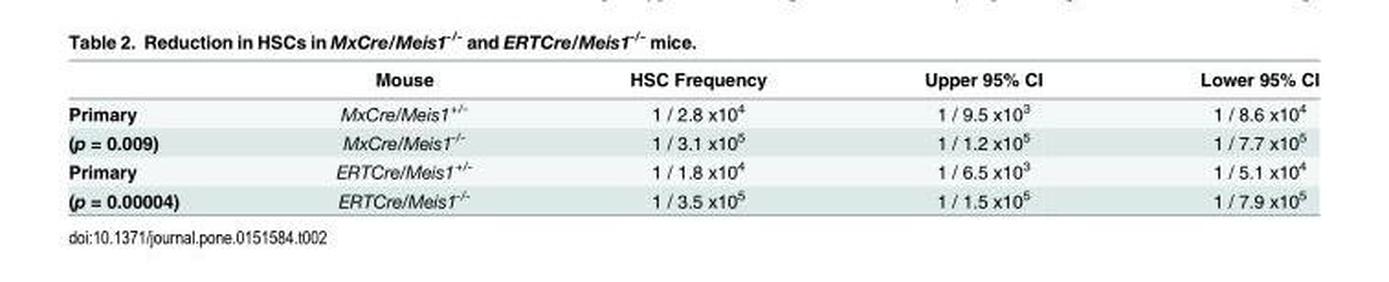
<table><thead><tr><td></td><td>Mouse</td><td>HSC Frequency</td><td>Upper 95% CI</td><td>Lower 95% CI</td></tr></thead><tbody><tr><td>Primary</td><td>MxCre/Meis1<sup>+/-</sup></td><td>1 / 2.8 x10<sup>4</sup></td><td>1 / 9.5 x10<sup>3</sup></td><td>1 / 8.6 x10<sup>4</sup></td></tr><tr><td>(p = 0.009)</td><td>MxCre/Meis1<sup>-/-</sup></td><td>1 / 3.1 x10<sup>5</sup></td><td>1 / 1.2 x10<sup>5</sup></td><td>1 / 7.7 x10<sup>5</sup></td></tr><tr><td>Primary</td><td>ERTCre/Meis1<sup>+/-</sup></td><td>1 / 1.8 x10<sup>4</sup></td><td>1 / 6.5 x10<sup>3</sup></td><td>1 / 5.1 x10<sup>4</sup></td></tr><tr><td>(p = 0.00004)</td><td>ERTCre/Meis1<sup>-/-</sup></td><td>1 / 3.5 x10<sup>5</sup></td><td>1 / 1.5 x10<sup>5</sup></td><td>1 / 7.9 x10<sup>5</sup></td></tr></tbody></table>